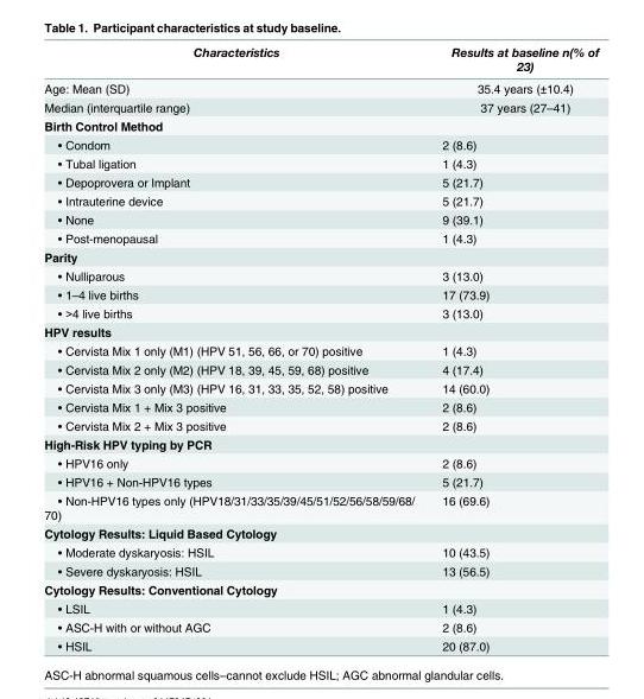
<table><thead><tr><td>Characteristics</td><td>Results at baseline n(% of 23)</td></tr></thead><tbody><tr><td>Age: Mean (SD)</td><td>35.4 years (±10.4)</td></tr><tr><td>Median (interquartile range)</td><td>37 years (27–41)</td></tr><tr><td colspan="2">Birth Control Method</td></tr><tr><td>• Condom</td><td>2 (8.6)</td></tr><tr><td>• Tubal ligation</td><td>1 (4.3)</td></tr><tr><td>• Depoprovera or Implant</td><td>5 (21.7)</td></tr><tr><td>• Intrauterine device</td><td>5 (21.7)</td></tr><tr><td>• None</td><td>9 (39.1)</td></tr><tr><td>• Post-menopausal</td><td>1 (4.3)</td></tr><tr><td colspan="2">Parity</td></tr><tr><td>• Nulliparous</td><td>3 (13.0)</td></tr><tr><td>• 1–4 live births</td><td>17 (73.9)</td></tr><tr><td>• &gt;4 live births</td><td>3 (13.0)</td></tr><tr><td colspan="2">HPV results</td></tr><tr><td>• Cervista Mix 1 only (M1) (HPV 51, 56, 66, or 70) positive</td><td>1 (4.3)</td></tr><tr><td>• Cervista Mix 2 only (M2) (HPV 18, 39, 45, 59, 68) positive</td><td>4 (17.4)</td></tr><tr><td>• Cervista Mix 3 only (M3) (HPV 16, 31, 33, 35, 52, 58) positive</td><td>14 (60.0)</td></tr><tr><td>• Cervista Mix 1 + Mix 3 positive</td><td>2 (8.6)</td></tr><tr><td>• Cervista Mix 2 + Mix 3 positive</td><td>2 (8.6)</td></tr><tr><td colspan="2">High-Risk HPV typing by PCR</td></tr><tr><td>• HPV16 only</td><td>2 (8.6)</td></tr><tr><td>• HPV16 + Non-HPV16 types</td><td>5 (21.7)</td></tr><tr><td>• Non-HPV16 types only (HPV18/31/33/35/39/45/51/52/56/58/59/68/ 70)</td><td>16 (69.6)</td></tr><tr><td colspan="2">Cytology Results: Liquid Based Cytology</td></tr><tr><td>• Moderate dyskaryosis: HSIL</td><td>10 (43.5)</td></tr><tr><td>• Severe dyskaryosis: HSIL</td><td>13 (56.5)</td></tr><tr><td colspan="2">Cytology Results: Conventional Cytology</td></tr><tr><td>• LSIL</td><td>1 (4.3)</td></tr><tr><td>• ASC-H with or without AGC</td><td>2 (8.6)</td></tr><tr><td>• HSIL</td><td>20 (87.0)</td></tr></tbody></table>